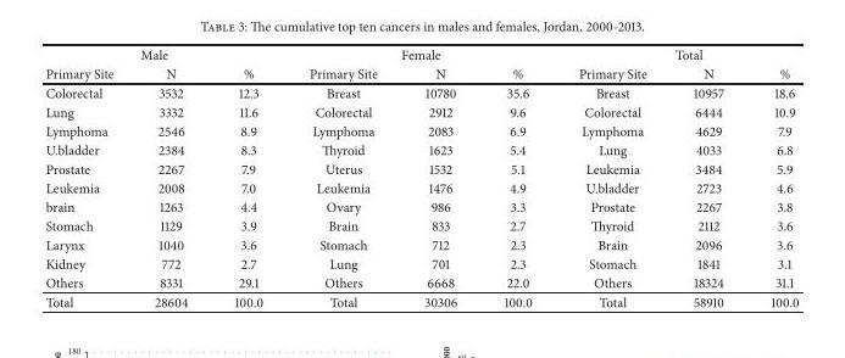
<table><thead><tr><td colspan="3">Male</td><td colspan="3">Female</td><td colspan="3">Total</td></tr><tr><td>Primary Site</td><td>N</td><td>%</td><td>Primary Site</td><td>N</td><td>%</td><td>Primary Site</td><td>N</td><td>%</td></tr></thead><tbody><tr><td>Colorectal</td><td>3532</td><td>12.3</td><td>Breast</td><td>10780</td><td>35.6</td><td>Breast</td><td>10957</td><td>18.6</td></tr><tr><td>Lung</td><td>3332</td><td>11.6</td><td>Colorectal</td><td>2912</td><td>9.6</td><td>Colorectal</td><td>6444</td><td>10.9</td></tr><tr><td>Lymphoma</td><td>2546</td><td>8.9</td><td>Lymphoma</td><td>2083</td><td>6.9</td><td>Lymphoma</td><td>4629</td><td>7.9</td></tr><tr><td>U.bladder</td><td>2384</td><td>8.3</td><td>Thyroid</td><td>1623</td><td>5.4</td><td>Lung</td><td>4033</td><td>6.8</td></tr><tr><td>Prostate</td><td>2267</td><td>7.9</td><td>Uterus</td><td>1532</td><td>5.1</td><td>Leukemia</td><td>3484</td><td>5.9</td></tr><tr><td>Leukemia</td><td>2008</td><td>7.0</td><td>Leukemia</td><td>1476</td><td>4.9</td><td>U.bladder</td><td>2723</td><td>4.6</td></tr><tr><td>brain</td><td>1263</td><td>4.4</td><td>Ovary</td><td>986</td><td>3.3</td><td>Prostate</td><td>2267</td><td>3.8</td></tr><tr><td>Stomach</td><td>1129</td><td>3.9</td><td>Brain</td><td>833</td><td>2.7</td><td>Thyroid</td><td>2112</td><td>3.6</td></tr><tr><td>Larynx</td><td>1040</td><td>3.6</td><td>Stomach</td><td>712</td><td>2.3</td><td>Brain</td><td>2096</td><td>3.6</td></tr><tr><td>Kidney</td><td>772</td><td>2.7</td><td>Lung</td><td>701</td><td>2.3</td><td>Stomach</td><td>1841</td><td>3.1</td></tr><tr><td>Others</td><td>8331</td><td>29.1</td><td>Others</td><td>6668</td><td>22.0</td><td>Others</td><td>18324</td><td>31.1</td></tr><tr><td>Total</td><td>28604</td><td>100.0</td><td>Total</td><td>30306</td><td>100.0</td><td>Total</td><td>58910</td><td>100.0</td></tr></tbody></table>